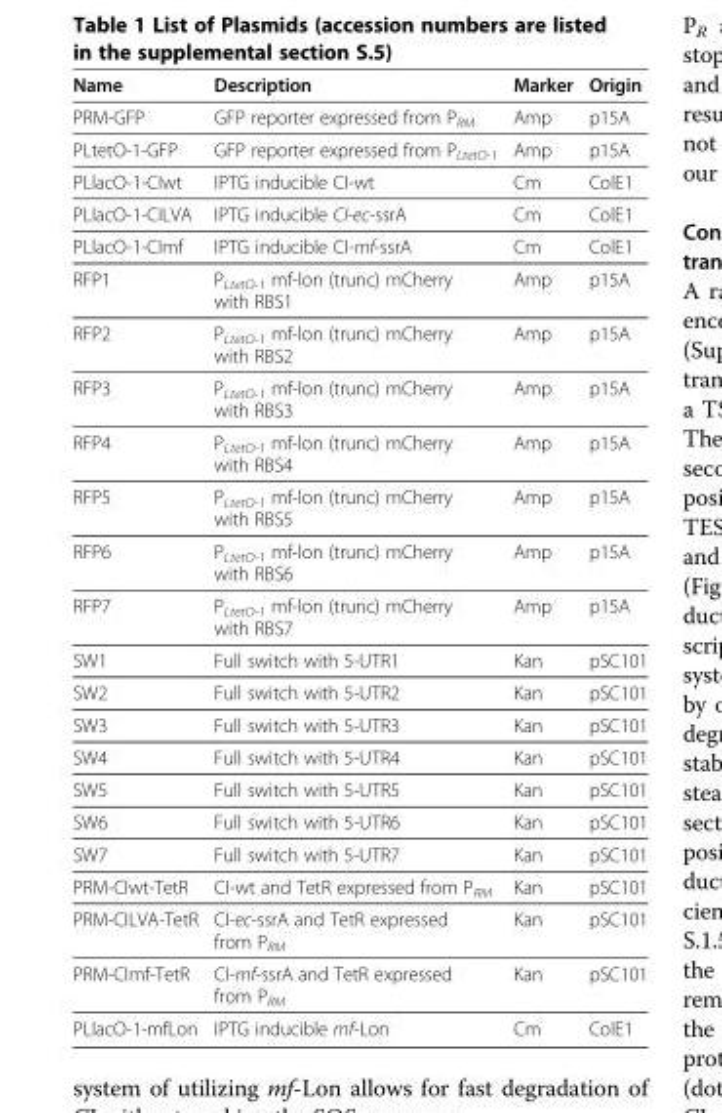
<table><thead><tr><td>Name</td><td>Description</td><td>Marker</td><td>Origin</td></tr></thead><tbody><tr><td>PRM-GFP</td><td>GFP reporter expressed from P<sub>RM</sub></td><td>Amp</td><td>p15A</td></tr><tr><td>PLtetO-1-GFP</td><td>GFP reporter expressed from P<sub>LtetO-1</sub></td><td>Amp</td><td>p15A</td></tr><tr><td>PLlacO-1-CIwt</td><td>IPTG inducible CI-wt</td><td>Cm</td><td>ColE1</td></tr><tr><td>PLlacO-1-CILVA</td><td>IPTG inducible CI-ec-ssrA</td><td>Cm</td><td>ColE1</td></tr><tr><td>PLlacO-1-CImf</td><td>IPTG inducible CI-mf-ssrA</td><td>Cm</td><td>ColE1</td></tr><tr><td>RFP1</td><td>P<sub>LtetO-1</sub> mf-lon (trunc) mCherry with RBS1</td><td>Amp</td><td>p15A</td></tr><tr><td>RFP2</td><td>P<sub>LtetO-1</sub> mf-lon (trunc) mCherry with RBS2</td><td>Amp</td><td>p15A</td></tr><tr><td>RFP3</td><td>P<sub>LtetO-1</sub> mf-lon (trunc) mCherry with RBS3</td><td>Amp</td><td>p15A</td></tr><tr><td>RFP4</td><td>P<sub>LtetO-1</sub> mf-lon (trunc) mCherry with RBS4</td><td>Amp</td><td>p15A</td></tr><tr><td>RFP5</td><td>P<sub>LtetO-1</sub> mf-lon (trunc) mCherry with RBS5</td><td>Amp</td><td>p15A</td></tr><tr><td>RFP6</td><td>P<sub>LtetO-1</sub> mf-lon (trunc) mCherry with RBS6</td><td>Amp</td><td>p15A</td></tr><tr><td>RFP7</td><td>P<sub>LtetO-1</sub> mf-lon (trunc) mCherry with RBS7</td><td>Amp</td><td>p15A</td></tr><tr><td>SW1</td><td>Full switch with 5-UTR1</td><td>Kan</td><td>pSC101</td></tr><tr><td>SW2</td><td>Full switch with 5-UTR2</td><td>Kan</td><td>pSC101</td></tr><tr><td>SW3</td><td>Full switch with 5-UTR3</td><td>Kan</td><td>pSC101</td></tr><tr><td>SW4</td><td>Full switch with 5-UTR4</td><td>Kan</td><td>pSC101</td></tr><tr><td>SW5</td><td>Full switch with 5-UTR5</td><td>Kan</td><td>pSC101</td></tr><tr><td>SW6</td><td>Full switch with 5-UTR6</td><td>Kan</td><td>pSC101</td></tr><tr><td>SW7</td><td>Full switch with 5-UTR7</td><td>Kan</td><td>pSC101</td></tr><tr><td>PRM-CIwt-TetR</td><td>CI-wt and TetR expressed from P<sub>RM</sub></td><td>Kan</td><td>pSC101</td></tr><tr><td>PRM-CILVA-TetR</td><td>CI-ec-ssrA and TetR expressed from P<sub>RM</sub></td><td>Kan</td><td>pSC101</td></tr><tr><td>PRM-CImf-TetR</td><td>CI-mf-ssrA and TetR expressed from P<sub>RM</sub></td><td>Kan</td><td>pSC101</td></tr><tr><td>PLlacO-1-mfLon</td><td>IPTG inducible mf-Lon</td><td>Cm</td><td>ColE1</td></tr></tbody></table>